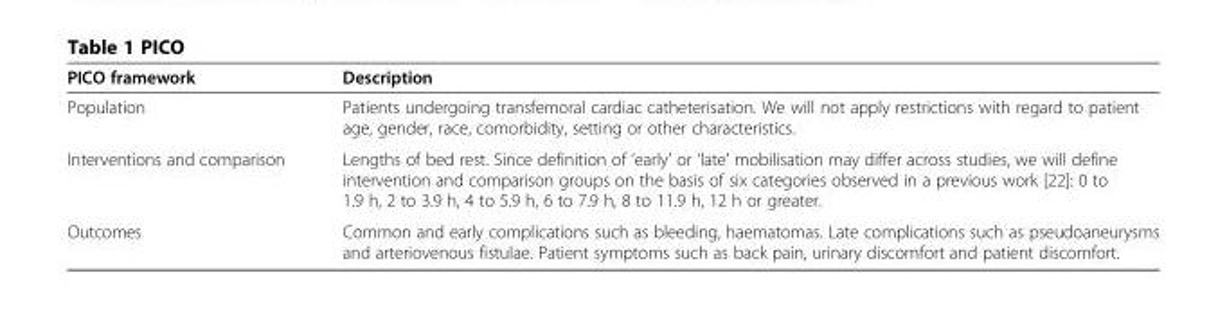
<table><thead><tr><td>PICO framework</td><td>Description</td></tr></thead><tbody><tr><td>Population</td><td>Patients undergoing transfemoral cardiac catheterisation. We will not apply restrictions with regard to patient age, gender, race, comorbidity, setting or other characteristics.</td></tr><tr><td>Interventions and comparison</td><td>Lengths of bed rest. Since definition of ‘early’ or ‘late’ mobilisation may differ across studies, we will define intervention and comparison groups on the basis of six categories observed in a previous work [22]: 0 to 1.9 h, 2 to 3.9 h, 4 to 5.9 h, 6 to 7.9 h, 8 to 11.9 h, 12 h or greater.</td></tr><tr><td>Outcomes</td><td>Common and early complications such as bleeding, haematomas. Late complications such as pseudoaneurysms and arteriovenous fistulae. Patient symptoms such as back pain, urinary discomfort and patient discomfort.</td></tr></tbody></table>